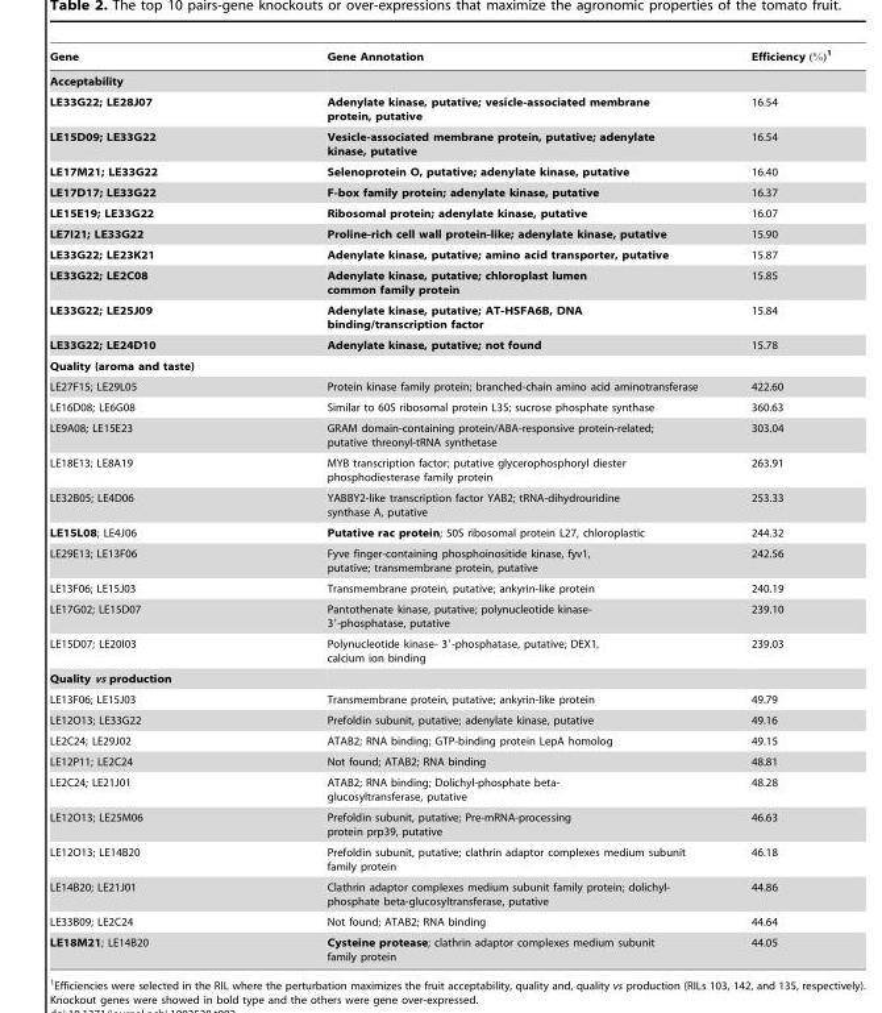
<table><thead><tr><td>Gene</td><td>Gene Annotation</td><td>Efficiency (%)1</td></tr></thead><tbody><tr><td colspan="3">Acceptability</td></tr><tr><td>LE33G22; LE28J07</td><td>Adenylate kinase, putative; vesicle-associated membrane protein, putative</td><td>16.54</td></tr><tr><td>LE15D09; LE33G22</td><td>Vesicle-associated membrane protein, putative; adenylate kinase, putative</td><td>16.54</td></tr><tr><td>LE17M21; LE33G22</td><td>Selenoprotein O, putative; adenylate kinase, putative</td><td>16.40</td></tr><tr><td>LE17D17; LE33G22</td><td>F-box family protein; adenylate kinase, putative</td><td>16.37</td></tr><tr><td>LE15E19; LE33G22</td><td>Ribosomal protein; adenylate kinase, putative</td><td>16.07</td></tr><tr><td>LE7I21; LE33G22</td><td>Proline-rich cell wall protein-like; adenylate kinase, putative</td><td>15.90</td></tr><tr><td>LE33G22; LE23K21</td><td>Adenylate kinase, putative; amino acid transporter, putative</td><td>15.87</td></tr><tr><td>LE33G22; LE2C08</td><td>Adenylate kinase, putative; chloroplast lumen common family protein</td><td>15.85</td></tr><tr><td>LE33G22; LE25J09</td><td>Adenylate kinase, putative; AT-HSFA6B, DNA binding/transcription factor</td><td>15.84</td></tr><tr><td>LE33G22; LE24D10</td><td>Adenylate kinase, putative; not found</td><td>15.78</td></tr><tr><td colspan="3">Quality (aroma and taste)</td></tr><tr><td>LE27F15; LE29L05</td><td>Protein kinase family protein; branched-chain amino acid aminotransferase</td><td>422.60</td></tr><tr><td>LE16D08; LE6G08</td><td>Similar to 60S ribosomal protein L35; sucrose phosphate synthase</td><td>360.63</td></tr><tr><td>LE9A08; LE15E23</td><td>GRAM domain-containing protein/ABA-responsive protein-related; putative threonyl-tRNA synthetase</td><td>303.04</td></tr><tr><td>LE18E13; LE8A19</td><td>MYB transcription factor; putative glycerophosphoryl diester phosphodiesterase family protein</td><td>263.91</td></tr><tr><td>LE32B05; LE4D06</td><td>YABBY2-like transcription factor YAB2; tRNA-dihydrouridine synthase A, putative</td><td>253.33</td></tr><tr><td>LE15L08; LE4J06</td><td>Putative rac protein; 50S ribosomal protein L27, chloroplastic</td><td>244.32</td></tr><tr><td>LE29E13; LE13F06</td><td>Fyve finger-containing phosphoinositide kinase, fyv1, putative; transmembrane protein, putative</td><td>242.56</td></tr><tr><td>LE13F06; LE15J03</td><td>Transmembrane protein, putative; ankyrin-like protein</td><td>240.19</td></tr><tr><td>LE17G02; LE15D07</td><td>Pantothenate kinase, putative; polynucleotide kinase- 3′-phosphatase, putative</td><td>239.10</td></tr><tr><td>LE15D07; LE20I03</td><td>Polynucleotide kinase- 3′-phosphatase, putative; DEX1, calcium ion binding</td><td>239.03</td></tr><tr><td colspan="3">Quality vs production</td></tr><tr><td>LE13F06; LE15J03</td><td>Transmembrane protein, putative; ankyrin-like protein</td><td>49.79</td></tr><tr><td>LE12O13; LE33G22</td><td>Prefoldin subunit, putative; adenylate kinase, putative</td><td>49.16</td></tr><tr><td>LE2C24; LE29J02</td><td>ATAB2; RNA binding; GTP-binding protein LepA homolog</td><td>49.15</td></tr><tr><td>LE12P11; LE2C24</td><td>Not found; ATAB2; RNA binding</td><td>48.81</td></tr><tr><td>LE2C24; LE21J01</td><td>ATAB2; RNA binding; Dolichyl-phosphate beta- glucosyltransferase, putative</td><td>48.28</td></tr><tr><td>LE12O13; LE25M06</td><td>Prefoldin subunit, putative; Pre-mRNA-processing protein prp39, putative</td><td>46.63</td></tr><tr><td>LE12O13; LE14B20</td><td>Prefoldin subunit, putative; clathrin adaptor complexes medium subunit family protein</td><td>46.18</td></tr><tr><td>LE14B20; LE21J01</td><td>Clathrin adaptor complexes medium subunit family protein; dolichyl- phosphate beta-glucosyltransferase, putative</td><td>44.86</td></tr><tr><td>LE33B09; LE2C24</td><td>Not found; ATAB2; RNA binding</td><td>44.64</td></tr><tr><td>LE18M21; LE14B20</td><td>Cysteine protease; clathrin adaptor complexes medium subunit family protein</td><td>44.05</td></tr></tbody></table>